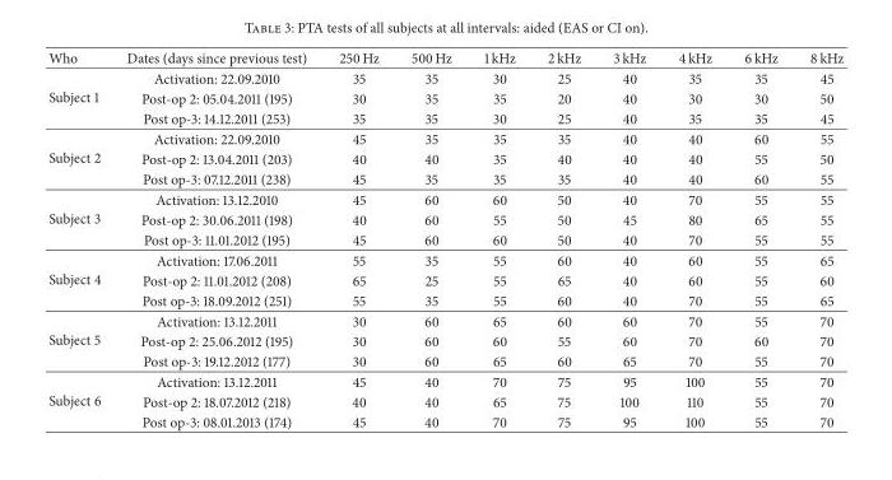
<table><thead><tr><td>Who</td><td>Dates (days since previous test)</td><td>250 Hz</td><td>500 Hz</td><td>1 kHz</td><td>2 kHz</td><td>3 kHz</td><td>4 kHz</td><td>6 kHz</td><td>8 kHz</td></tr></thead><tbody><tr><td rowspan="3">Subject 1</td><td>Activation: 22.09.2010</td><td>35</td><td>35</td><td>30</td><td>25</td><td>40</td><td>35</td><td>35</td><td>45</td></tr><tr><td>Post-op 2: 05.04.2011 (195)</td><td>30</td><td>35</td><td>35</td><td>20</td><td>40</td><td>30</td><td>30</td><td>50</td></tr><tr><td>Post op-3: 14.12.2011 (253)</td><td>35</td><td>35</td><td>30</td><td>25</td><td>40</td><td>35</td><td>35</td><td>45</td></tr><tr><td rowspan="3">Subject 2</td><td>Activation: 22.09.2010</td><td>45</td><td>35</td><td>35</td><td>35</td><td>40</td><td>40</td><td>60</td><td>55</td></tr><tr><td>Post-op 2: 13.04.2011 (203)</td><td>40</td><td>40</td><td>35</td><td>40</td><td>40</td><td>40</td><td>55</td><td>50</td></tr><tr><td>Post op-3: 07.12.2011 (238)</td><td>45</td><td>35</td><td>35</td><td>35</td><td>40</td><td>40</td><td>60</td><td>55</td></tr><tr><td rowspan="3">Subject 3</td><td>Activation: 13.12.2010</td><td>45</td><td>60</td><td>60</td><td>50</td><td>40</td><td>70</td><td>55</td><td>55</td></tr><tr><td>Post-op 2: 30.06.2011 (198)</td><td>40</td><td>60</td><td>55</td><td>50</td><td>45</td><td>80</td><td>65</td><td>55</td></tr><tr><td>Post op-3: 11.01.2012 (195)</td><td>45</td><td>60</td><td>60</td><td>50</td><td>40</td><td>70</td><td>55</td><td>55</td></tr><tr><td rowspan="3">Subject 4</td><td>Activation: 17.06.2011</td><td>55</td><td>35</td><td>55</td><td>60</td><td>40</td><td>60</td><td>55</td><td>65</td></tr><tr><td>Post-op 2: 11.01.2012 (208)</td><td>65</td><td>25</td><td>55</td><td>65</td><td>40</td><td>60</td><td>55</td><td>60</td></tr><tr><td>Post op-3: 18.09.2012 (251)</td><td>55</td><td>35</td><td>55</td><td>60</td><td>40</td><td>70</td><td>55</td><td>65</td></tr><tr><td rowspan="3">Subject 5</td><td>Activation: 13.12.2011</td><td>30</td><td>60</td><td>65</td><td>60</td><td>60</td><td>70</td><td>55</td><td>70</td></tr><tr><td>Post-op 2: 25.06.2012 (195)</td><td>30</td><td>60</td><td>60</td><td>55</td><td>60</td><td>70</td><td>60</td><td>70</td></tr><tr><td>Post op-3: 19.12.2012 (177)</td><td>30</td><td>60</td><td>65</td><td>60</td><td>65</td><td>70</td><td>55</td><td>70</td></tr><tr><td rowspan="3">Subject 6</td><td>Activation: 13.12.2011</td><td>45</td><td>40</td><td>70</td><td>75</td><td>95</td><td>100</td><td>55</td><td>70</td></tr><tr><td>Post-op 2: 18.07.2012 (218)</td><td>40</td><td>40</td><td>65</td><td>75</td><td>100</td><td>110</td><td>55</td><td>70</td></tr><tr><td>Post op-3: 08.01.2013 (174)</td><td>45</td><td>40</td><td>70</td><td>75</td><td>95</td><td>100</td><td>55</td><td>70</td></tr></tbody></table>